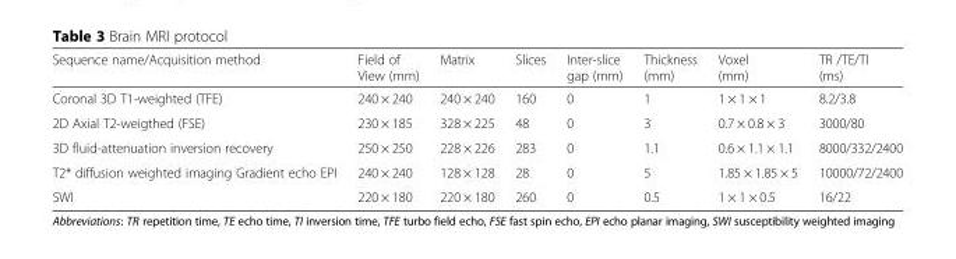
<table><thead><tr><td>Sequence name/Acquisition method</td><td>Field of View (mm)</td><td>Matrix</td><td>Slices</td><td>Inter-slice gap (mm)</td><td>Thickness (mm)</td><td>Voxel (mm)</td><td>TR /TE/TI (ms)</td></tr></thead><tbody><tr><td>Coronal 3D T1-weighted (TFE)</td><td>240 × 240</td><td>240 × 240</td><td>160</td><td>0</td><td>1</td><td>1 × 1 × 1</td><td>8.2/3.8</td></tr><tr><td>2D Axial T2-weigthed (FSE)</td><td>230 × 185</td><td>328 × 225</td><td>48</td><td>0</td><td>3</td><td>0.7 × 0.8 × 3</td><td>3000/80</td></tr><tr><td>3D fluid-attenuation inversion recovery</td><td>250 × 250</td><td>228 × 226</td><td>283</td><td>0</td><td>1.1</td><td>0.6 × 1.1 × 1.1</td><td>8000/332/2400</td></tr><tr><td>T2* diffusion weighted imaging Gradient echo EPI</td><td>240 × 240</td><td>128 × 128</td><td>28</td><td>0</td><td>5</td><td>1.85 × 1.85 × 5</td><td>10000/72/2400</td></tr><tr><td>SWI</td><td>220 × 180</td><td>220 × 180</td><td>260</td><td>0</td><td>0.5</td><td>1 × 1 × 0.5</td><td>16/22</td></tr></tbody></table>